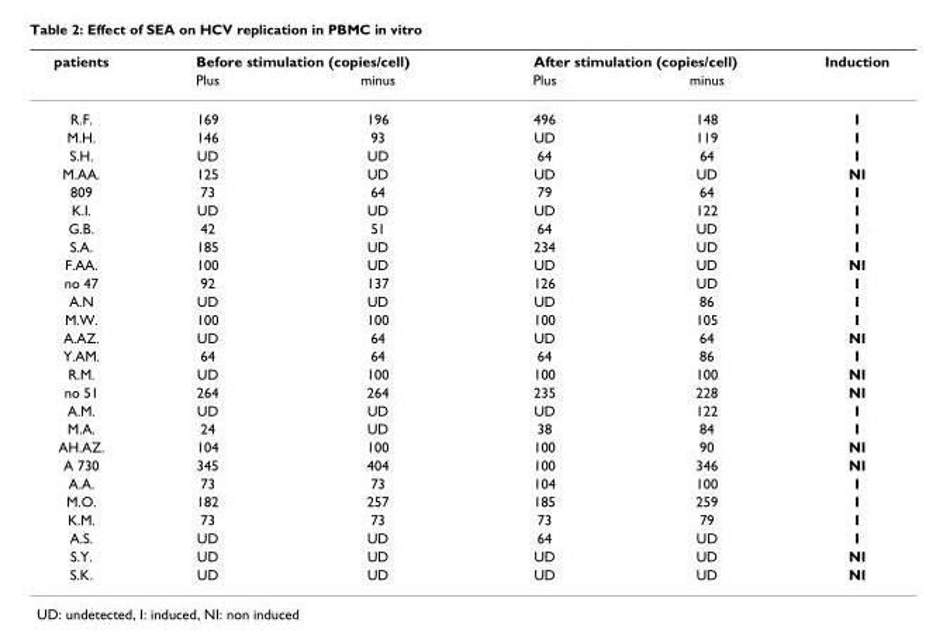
<table><thead><tr><td rowspan="2">patients</td><td colspan="2">Before stimulation (copies/cell)</td><td colspan="2">After stimulation (copies/cell)</td><td rowspan="2">Induction</td></tr><tr><td>Plus</td><td>minus</td><td>Plus</td><td>minus</td></tr></thead><tbody><tr><td>R.F.</td><td>169</td><td>196</td><td>496</td><td>148</td><td>I</td></tr><tr><td>M.H.</td><td>146</td><td>93</td><td>UD</td><td>119</td><td>I</td></tr><tr><td>S.H.</td><td>UD</td><td>UD</td><td>64</td><td>64</td><td>I</td></tr><tr><td>M.AA.</td><td>125</td><td>UD</td><td>UD</td><td>UD</td><td>NI</td></tr><tr><td>809</td><td>73</td><td>64</td><td>79</td><td>64</td><td>I</td></tr><tr><td>K.I.</td><td>UD</td><td>UD</td><td>UD</td><td>122</td><td>I</td></tr><tr><td>G.B.</td><td>42</td><td>51</td><td>64</td><td>UD</td><td>I</td></tr><tr><td>S.A.</td><td>185</td><td>UD</td><td>234</td><td>UD</td><td>I</td></tr><tr><td>F.AA.</td><td>100</td><td>UD</td><td>UD</td><td>UD</td><td>NI</td></tr><tr><td>no 47</td><td>92</td><td>137</td><td>126</td><td>UD</td><td>I</td></tr><tr><td>A.N</td><td>UD</td><td>UD</td><td>UD</td><td>86</td><td>I</td></tr><tr><td>M.W.</td><td>100</td><td>100</td><td>100</td><td>105</td><td>I</td></tr><tr><td>A.AZ.</td><td>UD</td><td>64</td><td>UD</td><td>64</td><td>NI</td></tr><tr><td>Y.AM.</td><td>64</td><td>64</td><td>64</td><td>86</td><td>I</td></tr><tr><td>R.M.</td><td>UD</td><td>100</td><td>100</td><td>100</td><td>NI</td></tr><tr><td>no 51</td><td>264</td><td>264</td><td>235</td><td>228</td><td>NI</td></tr><tr><td>A.M.</td><td>UD</td><td>UD</td><td>UD</td><td>122</td><td>I</td></tr><tr><td>M.A.</td><td>24</td><td>UD</td><td>38</td><td>84</td><td>I</td></tr><tr><td>AH.AZ.</td><td>104</td><td>100</td><td>100</td><td>90</td><td>NI</td></tr><tr><td>A 730</td><td>345</td><td>404</td><td>100</td><td>346</td><td>NI</td></tr><tr><td>A.A.</td><td>73</td><td>73</td><td>104</td><td>100</td><td>I</td></tr><tr><td>M.O.</td><td>182</td><td>257</td><td>185</td><td>259</td><td>I</td></tr><tr><td>K.M.</td><td>73</td><td>73</td><td>73</td><td>79</td><td>I</td></tr><tr><td>A.S.</td><td>UD</td><td>UD</td><td>64</td><td>UD</td><td>I</td></tr><tr><td>S.Y.</td><td>UD</td><td>UD</td><td>UD</td><td>UD</td><td>NI</td></tr><tr><td>S.K.</td><td>UD</td><td>UD</td><td>UD</td><td>UD</td><td>NI</td></tr></tbody></table>